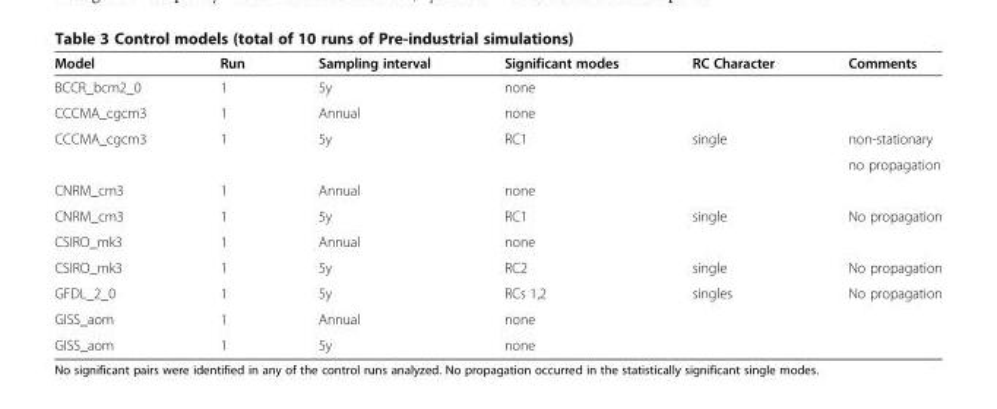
<table><thead><tr><td>Model</td><td>Run</td><td>Sampling interval</td><td>Significant modes</td><td>RC Character</td><td>Comments</td></tr></thead><tbody><tr><td>BCCR_bcm2_0</td><td>1</td><td>5y</td><td>none</td><td></td><td></td></tr><tr><td>CCCMA_cgcm3</td><td>1</td><td>Annual</td><td>none</td><td></td><td></td></tr><tr><td rowspan="2">CCCMA_cgcm3</td><td rowspan="2">1</td><td rowspan="2">5y</td><td rowspan="2">RC1</td><td rowspan="2">single</td><td>non-stationary</td></tr><tr><td>no propagation</td></tr><tr><td>CNRM_cm3</td><td>1</td><td>Annual</td><td>none</td><td></td><td></td></tr><tr><td>CNRM_cm3</td><td>1</td><td>5y</td><td>RC1</td><td>single</td><td>No propagation</td></tr><tr><td>CSIRO_mk3</td><td>1</td><td>Annual</td><td>none</td><td></td><td></td></tr><tr><td>CSIRO_mk3</td><td>1</td><td>5y</td><td>RC2</td><td>single</td><td>No propagation</td></tr><tr><td>GFDL_2_0</td><td>1</td><td>5y</td><td>RCs 1,2</td><td>singles</td><td>No propagation</td></tr><tr><td>GISS_aom</td><td>1</td><td>Annual</td><td>none</td><td></td><td></td></tr><tr><td>GISS_aom</td><td>1</td><td>5y</td><td>none</td><td></td><td></td></tr></tbody></table>